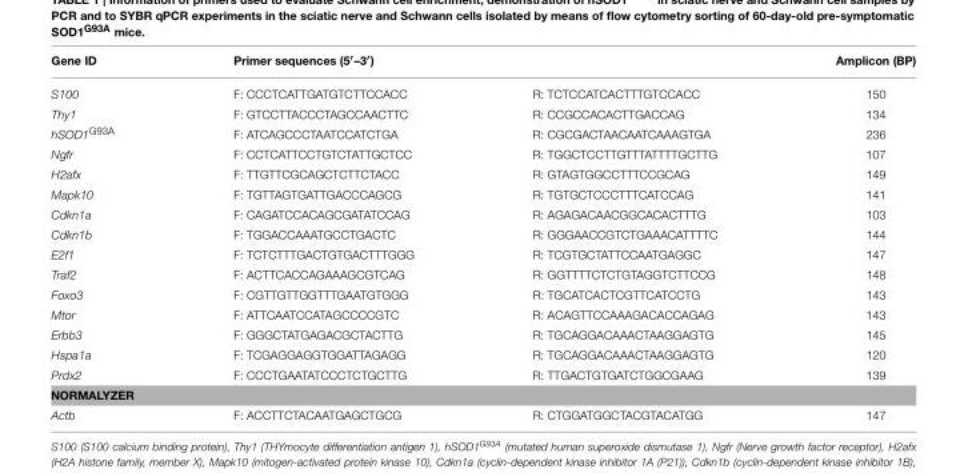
<table><thead><tr><td rowspan="2">Gene ID S100</td><td colspan="2">Primer sequences (5<sup>′</sup>–3<sup>′</sup>)</td><td rowspan="2">Amplicon (BP) 150</td></tr><tr><td>F: CCCTCATTGATGTCTTCCACC</td><td>R: TCTCCATCACTTTGTCCACC</td></tr></thead><tbody><tr><td>Thy1</td><td>F: GTCCTTACCCTAGCCAACTTC</td><td>R: CCGCCACACTTGACCAG</td><td>134</td></tr><tr><td>hSOD1<sup>G93A</sup></td><td>F: ATCAGCCCTAATCCATCTGA</td><td>R: CGCGACTAACAATCAAAGTGA</td><td>236</td></tr><tr><td>Ngfr</td><td>F: CCTCATTCCTGTCTATTGCTCC</td><td>R: TGGCTCCTTGTTTATTTTGCTTG</td><td>107</td></tr><tr><td>H2afx</td><td>F: TTGTTCGCAGCTCTTCTACC</td><td>R: GTAGTGGCCTTTCCGCAG</td><td>149</td></tr><tr><td>Mapk10</td><td>F: TGTTAGTGATTGACCCAGCG</td><td>R: TGTGCTCCCTTTCATCCAG</td><td>141</td></tr><tr><td>Cdkn1a</td><td>F: CAGATCCACAGCGATATCCAG</td><td>R: AGAGACAACGGCACACTTTG</td><td>103</td></tr><tr><td>Cdkn1b</td><td>F: TGGACCAAATGCCTGACTC</td><td>R: GGGAACCGTCTGAAACATTTTC</td><td>144</td></tr><tr><td>E2f1</td><td>F: TCTCTTTGACTGTGACTTTGGG</td><td>R: TCGTGCTATTCCAATGAGGC</td><td>147</td></tr><tr><td>Traf2</td><td>F: ACTTCACCAGAAAGCGTCAG</td><td>R: GGTTTTCTCTGTAGGTCTTCCG</td><td>148</td></tr><tr><td>Foxo3</td><td>F: CGTTGTTGGTTTGAATGTGGG</td><td>R: TGCATCACTCGTTCATCCTG</td><td>143</td></tr><tr><td>Mtor</td><td>F: ATTCAATCCATAGCCCCGTC</td><td>R: ACAGTTCCAAAGACACCAGAG</td><td>143</td></tr><tr><td>Erbb3</td><td>F: GGGCTATGAGACGCTACTTG</td><td>R: TGCAGGACAAACTAAGGAGTG</td><td>145</td></tr><tr><td>Hspa1a</td><td>F: TCGAGGAGGTGGATTAGAGG</td><td>R: TGCAGGACAAACTAAGGAGTG</td><td>120</td></tr><tr><td>Prdx2</td><td>F: CCCTGAATATCCCTCTGCTTG</td><td>R: TTGACTGTGATCTGGCGAAG</td><td>139</td></tr><tr><td colspan="4">NORMALYZER</td></tr><tr><td>Actb</td><td>F: ACCTTCTACAATGAGCTGCG</td><td>R: CTGGATGGCTACGTACATGG</td><td>147</td></tr></tbody></table>